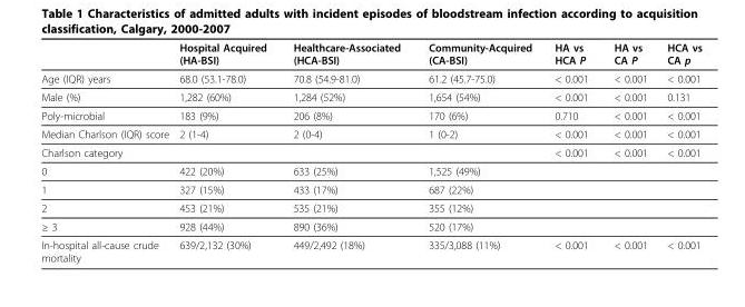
<table><thead><tr><td></td><td>Hospital Acquired (HA-BSI)</td><td>Healthcare-Associated (HCA-BSI)</td><td>Community-Acquired (CA-BSI)</td><td>HA vs HCA P</td><td>HA vs CA P</td><td>HCA vs CA p</td></tr></thead><tbody><tr><td>Age (IQR) years</td><td>68.0 (53.1-78.0)</td><td>70.8 (54.9-81.0)</td><td>61.2 (45.7-75.0)</td><td>&lt; 0.001</td><td>&lt; 0.001</td><td>&lt; 0.001</td></tr><tr><td>Male (%)</td><td>1,282 (60%)</td><td>1,284 (52%)</td><td>1,654 (54%)</td><td>&lt; 0.001</td><td>&lt; 0.001</td><td>0.131</td></tr><tr><td>Poly-microbial</td><td>183 (9%)</td><td>206 (8%)</td><td>170 (6%)</td><td>0.710</td><td>&lt; 0.001</td><td>&lt; 0.001</td></tr><tr><td>Median Charlson (IQR) score</td><td>2 (1-4)</td><td>2 (0-4)</td><td>1 (0-2)</td><td>&lt; 0.001</td><td>&lt; 0.001</td><td>&lt; 0.001</td></tr><tr><td>Charlson category</td><td></td><td></td><td></td><td>&lt; 0.001</td><td>&lt; 0.001</td><td>&lt; 0.001</td></tr><tr><td>0</td><td>422 (20%)</td><td>633 (25%)</td><td>1,525 (49%)</td><td></td><td></td><td></td></tr><tr><td>1</td><td>327 (15%)</td><td>433 (17%)</td><td>687 (22%)</td><td></td><td></td><td></td></tr><tr><td>2</td><td>453 (21%)</td><td>535 (21%)</td><td>355 (12%)</td><td></td><td></td><td></td></tr><tr><td>≥ 3</td><td>928 (44%)</td><td>890 (36%)</td><td>520 (17%)</td><td></td><td></td><td></td></tr><tr><td>In-hospital all-cause crude mortality</td><td>639/2,132 (30%)</td><td>449/2,492 (18%)</td><td>335/3,088 (11%)</td><td>&lt; 0.001</td><td>&lt; 0.001</td><td>&lt; 0.001</td></tr></tbody></table>